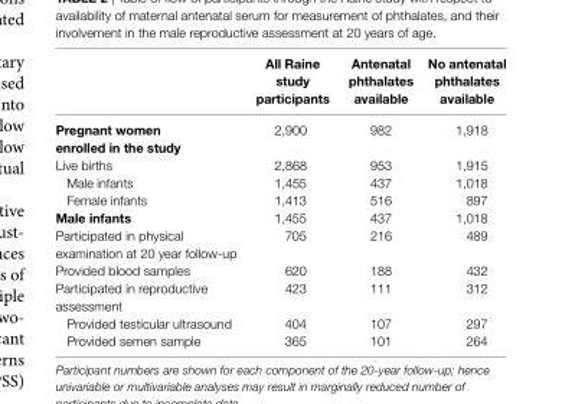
<table><thead><tr><td></td><td>all raine study participants</td><td>antenatal phthalates available</td><td>no antenatal phthalates available</td></tr></thead><tbody><tr><td>Pregnant women enrolled in the study</td><td>2,900</td><td>982</td><td>1,918</td></tr><tr><td>Live births</td><td>2,868</td><td>953</td><td>1,915</td></tr><tr><td>Male infants</td><td>1,455</td><td>437</td><td>1,018</td></tr><tr><td>Female infants</td><td>1,413</td><td>516</td><td>897</td></tr><tr><td>Male infants</td><td>1,455</td><td>437</td><td>1,018</td></tr><tr><td>Participated in physical examination at 20 year follow-up</td><td>705</td><td>216</td><td>489</td></tr><tr><td>Provided blood samples</td><td>620</td><td>188</td><td>432</td></tr><tr><td>Participated in reproductive assessment</td><td>423</td><td>111</td><td>312</td></tr><tr><td>Provided testicular ultrasound</td><td>404</td><td>107</td><td>297</td></tr><tr><td>Provided semen sample</td><td>365</td><td>101</td><td>264</td></tr></tbody></table>